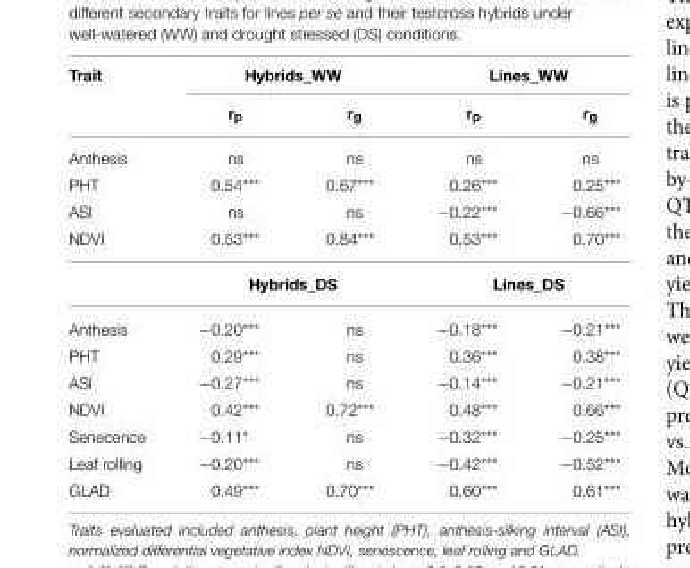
<table><thead><tr><td rowspan="2">Trait</td><td colspan="2">Hybrids_WW</td><td colspan="2">Lines_WW</td></tr><tr><td>r<sub>p</sub></td><td>r<sub>g</sub></td><td>r<sub>p</sub></td><td>r<sub>g</sub></td></tr></thead><tbody><tr><td>Anthesis</td><td>ns</td><td>ns</td><td>ns</td><td>ns</td></tr><tr><td>PHT</td><td>0.54***</td><td>0.67***</td><td>0.26***</td><td>0.25***</td></tr><tr><td>ASI</td><td>ns</td><td>ns</td><td>−0.22***</td><td>−0.66***</td></tr><tr><td rowspan="2">NDVI</td><td>0.53***</td><td>0.84***</td><td>0.53***</td><td>0.70***</td></tr><tr><td colspan="2">Hybrids_DS</td><td colspan="2">Lines_DS</td></tr><tr><td>Anthesis</td><td>−0.20***</td><td>ns</td><td>−0.18***</td><td>−0.21***</td></tr><tr><td>PHT</td><td>0.29***</td><td>ns</td><td>0.36***</td><td>0.38***</td></tr><tr><td>ASI</td><td>−0.27***</td><td>ns</td><td>−0.14***</td><td>−0.21***</td></tr><tr><td>NDVI</td><td>0.42***</td><td>0.72***</td><td>0.48***</td><td>0.66***</td></tr><tr><td>Senecence</td><td>−0.11*</td><td>ns</td><td>−0.32***</td><td>−0.25***</td></tr><tr><td>Leaf rolling</td><td>−0.20***</td><td>ns</td><td>−0.42***</td><td>−0.52***</td></tr><tr><td>GLAD</td><td>0.49***</td><td>0.70***</td><td>0.60***</td><td>0.61***</td></tr></tbody></table>